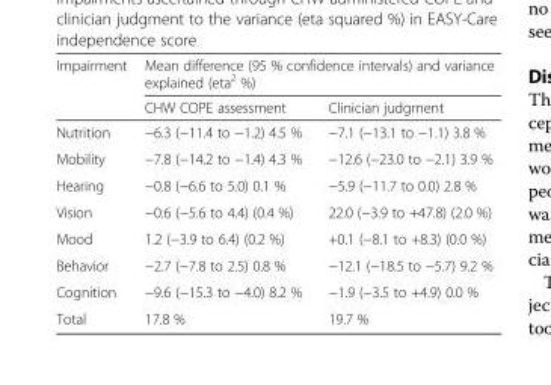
<table><thead><tr><td rowspan="2">Impairment</td><td colspan="2">Mean difference (95 % confidence intervals) and variance explained (eta<sup>2</sup> %)</td></tr><tr><td>CHW COPE assessment</td><td>Clinician judgment</td></tr></thead><tbody><tr><td>Nutrition</td><td>−6.3 (−11.4 to −1.2) 4.5 %</td><td>−7.1 (−13.1 to −1.1) 3.8 %</td></tr><tr><td>Mobility</td><td>−7.8 (−14.2 to −1.4) 4.3 %</td><td>−12.6 (−23.0 to −2.1) 3.9 %</td></tr><tr><td>Hearing</td><td>−0.8 (−6.6 to 5.0) 0.1 %</td><td>−5.9 (−11.7 to 0.0) 2.8 %</td></tr><tr><td>Vision</td><td>−0.6 (−5.6 to 4.4) (0.4 %)</td><td>22.0 (−3.9 to +47.8) (2.0 %)</td></tr><tr><td>Mood</td><td>1.2 (−3.9 to 6.4) (0.2 %)</td><td>+0.1 (−8.1 to +8.3) (0.0 %)</td></tr><tr><td>Behavior</td><td>−2.7 (−7.8 to 2.5) 0.8 %</td><td>−12.1 (−18.5 to −5.7) 9.2 %</td></tr><tr><td>Cognition</td><td>−9.6 (−15.3 to −4.0) 8.2 %</td><td>−1.9 (−3.5 to +4.9) 0.0 %</td></tr><tr><td>Total</td><td>17.8 %</td><td>19.7 %</td></tr></tbody></table>